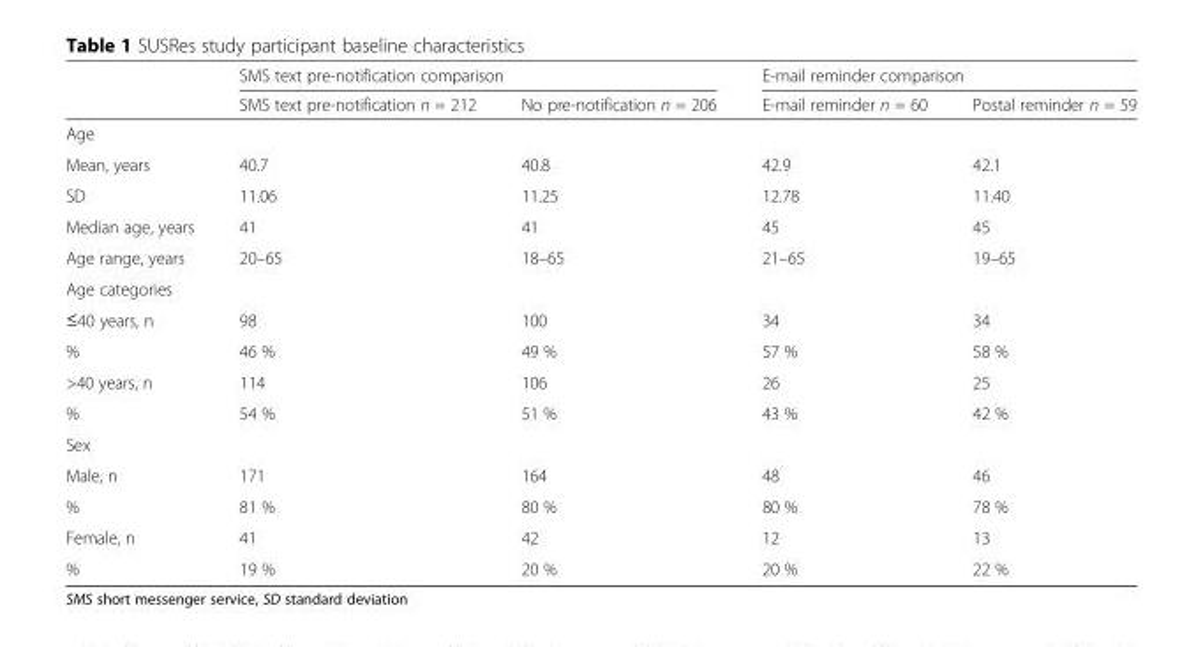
<table><thead><tr><td rowspan="2"></td><td colspan="2">SMS text pre-notification comparison</td><td colspan="2">E-mail reminder comparison</td></tr><tr><td>SMS text pre-notification n = 212</td><td>No pre-notification n = 206</td><td>E-mail reminder n = 60</td><td>Postal reminder n = 59</td></tr></thead><tbody><tr><td colspan="5">Age</td></tr><tr><td>Mean, years</td><td>40.7</td><td>40.8</td><td>42.9</td><td>42.1</td></tr><tr><td>SD</td><td>11.06</td><td>11.25</td><td>12.78</td><td>11.40</td></tr><tr><td>Median age, years</td><td>41</td><td>41</td><td>45</td><td>45</td></tr><tr><td>Age range, years</td><td>20–65</td><td>18–65</td><td>21–65</td><td>19–65</td></tr><tr><td colspan="5">Age categories</td></tr><tr><td>≤40 years, n</td><td>98</td><td>100</td><td>34</td><td>34</td></tr><tr><td>%</td><td>46 %</td><td>49 %</td><td>57 %</td><td>58 %</td></tr><tr><td>&gt;40 years, n</td><td>114</td><td>106</td><td>26</td><td>25</td></tr><tr><td>%</td><td>54 %</td><td>51 %</td><td>43 %</td><td>42 %</td></tr><tr><td colspan="5">Sex</td></tr><tr><td>Male, n</td><td>171</td><td>164</td><td>48</td><td>46</td></tr><tr><td>%</td><td>81 %</td><td>80 %</td><td>80 %</td><td>78 %</td></tr><tr><td>Female, n</td><td>41</td><td>42</td><td>12</td><td>13</td></tr><tr><td>%</td><td>19 %</td><td>20 %</td><td>20 %</td><td>22 %</td></tr></tbody></table>